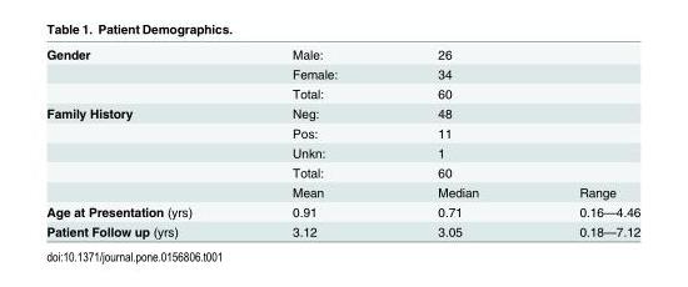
<table><tbody><tr><td rowspan="3">Gender</td><td>Male:</td><td>26</td><td></td></tr><tr><td>Female:</td><td>34</td><td></td></tr><tr><td>Total:</td><td>60</td><td></td></tr><tr><td rowspan="5">Family History</td><td>Neg:</td><td>48</td><td></td></tr><tr><td>Pos:</td><td>11</td><td></td></tr><tr><td>Unkn:</td><td>1</td><td></td></tr><tr><td>Total:</td><td>60</td><td></td></tr><tr><td>Mean</td><td>Median</td><td>Range</td></tr><tr><td>Age at Presentation (yrs)</td><td>0.91</td><td>0.71</td><td>0.16—4.46</td></tr><tr><td>Patient Follow up (yrs)</td><td>3.12</td><td>3.05</td><td>0.18—7.12</td></tr></tbody></table>